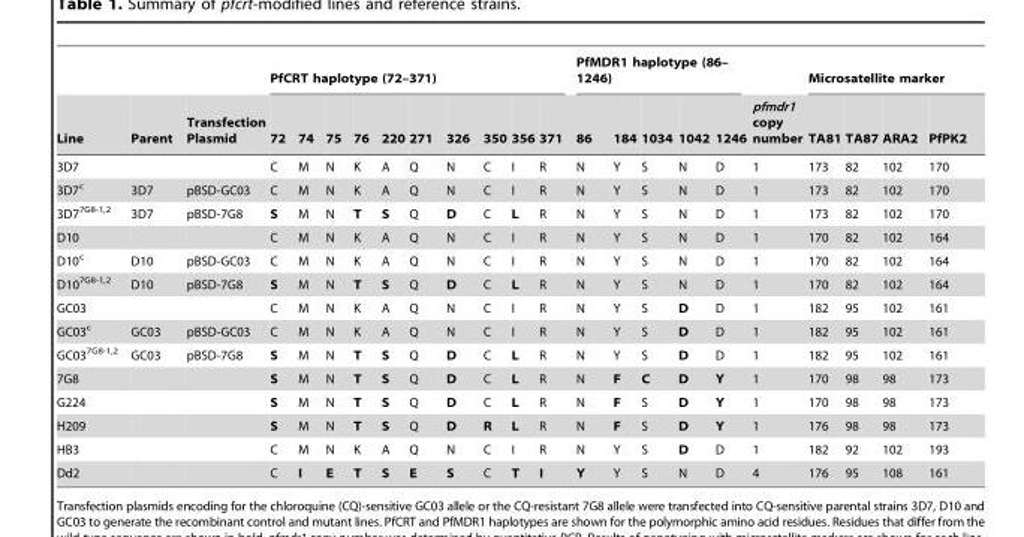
<table><thead><tr><td rowspan="2">Line</td><td rowspan="2">Parent</td><td rowspan="2">Transfection Plasmid</td><td colspan="10">PfCRT haplotype (72–371)</td><td colspan="5">PfMDR1 haplotype (86– 1246)</td><td rowspan="2">pfmdr1 copy number</td><td colspan="4">Microsatellite marker</td></tr><tr><td>72</td><td>74</td><td>75</td><td>76</td><td>220</td><td>271</td><td>326</td><td>350</td><td>356</td><td>371</td><td>86</td><td>184</td><td>1034</td><td>1042</td><td>1246</td><td>TA81</td><td>TA87</td><td>ARA2</td><td>PfPK2</td></tr></thead><tbody><tr><td>3D7</td><td></td><td></td><td>C</td><td>M</td><td>N</td><td>K</td><td>A</td><td>Q</td><td>N</td><td>C</td><td>I</td><td>R</td><td>N</td><td>Y</td><td>S</td><td>N</td><td>D</td><td>1</td><td>173</td><td>82</td><td>102</td><td>170</td></tr><tr><td>3D7<sup>c</sup></td><td>3D7</td><td>pBSD-GC03</td><td>C</td><td>M</td><td>N</td><td>K</td><td>A</td><td>Q</td><td>N</td><td>C</td><td>I</td><td>R</td><td>N</td><td>Y</td><td>S</td><td>N</td><td>D</td><td>1</td><td>173</td><td>82</td><td>102</td><td>170</td></tr><tr><td>3D7<sup>7G8-1,2</sup></td><td>3D7</td><td>pBSD-7G8</td><td>S</td><td>M</td><td>N</td><td>T</td><td>S</td><td>Q</td><td>D</td><td>C</td><td>L</td><td>R</td><td>N</td><td>Y</td><td>S</td><td>N</td><td>D</td><td>1</td><td>173</td><td>82</td><td>102</td><td>170</td></tr><tr><td>D10</td><td></td><td></td><td>C</td><td>M</td><td>N</td><td>K</td><td>A</td><td>Q</td><td>N</td><td>C</td><td>I</td><td>R</td><td>N</td><td>Y</td><td>S</td><td>N</td><td>D</td><td>1</td><td>170</td><td>82</td><td>102</td><td>164</td></tr><tr><td>D10<sup>c</sup></td><td>D10</td><td>pBSD-GC03</td><td>C</td><td>M</td><td>N</td><td>K</td><td>A</td><td>Q</td><td>N</td><td>C</td><td>I</td><td>R</td><td>N</td><td>Y</td><td>S</td><td>N</td><td>D</td><td>1</td><td>170</td><td>82</td><td>102</td><td>164</td></tr><tr><td>D10<sup>7G8-1,2</sup></td><td>D10</td><td>pBSD-7G8</td><td>S</td><td>M</td><td>N</td><td>T</td><td>S</td><td>Q</td><td>D</td><td>C</td><td>L</td><td>R</td><td>N</td><td>Y</td><td>S</td><td>N</td><td>D</td><td>1</td><td>170</td><td>82</td><td>102</td><td>164</td></tr><tr><td>GC03</td><td></td><td></td><td>C</td><td>M</td><td>N</td><td>K</td><td>A</td><td>Q</td><td>N</td><td>C</td><td>I</td><td>R</td><td>N</td><td>Y</td><td>S</td><td>D</td><td>D</td><td>1</td><td>182</td><td>95</td><td>102</td><td>161</td></tr><tr><td>GC03<sup>c</sup></td><td>GC03</td><td>pBSD-GC03</td><td>C</td><td>M</td><td>N</td><td>K</td><td>A</td><td>Q</td><td>N</td><td>C</td><td>I</td><td>R</td><td>N</td><td>Y</td><td>S</td><td>D</td><td>D</td><td>1</td><td>182</td><td>95</td><td>102</td><td>161</td></tr><tr><td>GC03<sup>7G8-1,2</sup></td><td>GC03</td><td>pBSD-7G8</td><td>S</td><td>M</td><td>N</td><td>T</td><td>S</td><td>Q</td><td>D</td><td>C</td><td>L</td><td>R</td><td>N</td><td>Y</td><td>S</td><td>D</td><td>D</td><td>1</td><td>182</td><td>95</td><td>102</td><td>161</td></tr><tr><td>7G8</td><td></td><td></td><td>S</td><td>M</td><td>N</td><td>T</td><td>S</td><td>Q</td><td>D</td><td>C</td><td>L</td><td>R</td><td>N</td><td>F</td><td>C</td><td>D</td><td>Y</td><td>1</td><td>170</td><td>98</td><td>98</td><td>173</td></tr><tr><td>G224</td><td></td><td></td><td>S</td><td>M</td><td>N</td><td>T</td><td>S</td><td>Q</td><td>D</td><td>C</td><td>L</td><td>R</td><td>N</td><td>F</td><td>S</td><td>D</td><td>Y</td><td>1</td><td>170</td><td>98</td><td>98</td><td>173</td></tr><tr><td>H209</td><td></td><td></td><td>S</td><td>M</td><td>N</td><td>T</td><td>S</td><td>Q</td><td>D</td><td>R</td><td>L</td><td>R</td><td>N</td><td>F</td><td>S</td><td>D</td><td>Y</td><td>1</td><td>176</td><td>98</td><td>98</td><td>173</td></tr><tr><td>HB3</td><td></td><td></td><td>C</td><td>M</td><td>N</td><td>K</td><td>A</td><td>Q</td><td>N</td><td>C</td><td>I</td><td>R</td><td>N</td><td>Y</td><td>S</td><td>D</td><td>D</td><td>1</td><td>182</td><td>92</td><td>102</td><td>193</td></tr><tr><td>Dd2</td><td></td><td></td><td>C</td><td>I</td><td>E</td><td>T</td><td>S</td><td>E</td><td>S</td><td>C</td><td>T</td><td>I</td><td>Y</td><td>Y</td><td>S</td><td>N</td><td>D</td><td>4</td><td>176</td><td>95</td><td>108</td><td>161</td></tr></tbody></table>